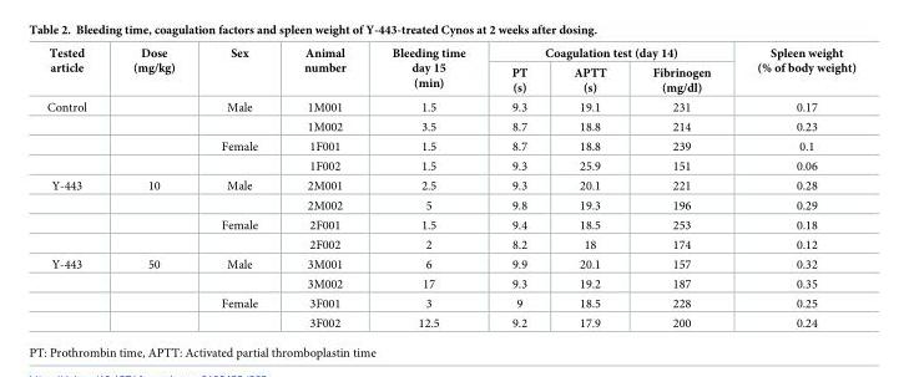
<table><thead><tr><td rowspan="2">Tested article</td><td rowspan="2">Dose (mg/kg)</td><td rowspan="2">Sex</td><td rowspan="2">Animal number</td><td rowspan="2">Bleeding time day 15 (min)</td><td colspan="3">Coagulation test (day 14)</td><td rowspan="2">Spleen weight (% of body weight)</td></tr><tr><td>PT (s)</td><td>APTT (s)</td><td>Fibrinogen (mg/dl)</td></tr></thead><tbody><tr><td rowspan="4">Control</td><td></td><td>Male</td><td>1M001</td><td>1.5</td><td>9.3</td><td>19.1</td><td>231</td><td>0.17</td></tr><tr><td></td><td></td><td>1M002</td><td>3.5</td><td>8.7</td><td>18.8</td><td>214</td><td>0.23</td></tr><tr><td></td><td>Female</td><td>1F001</td><td>1.5</td><td>8.7</td><td>18.8</td><td>239</td><td>0.1</td></tr><tr><td></td><td></td><td>1F002</td><td>1.5</td><td>9.3</td><td>25.9</td><td>151</td><td>0.06</td></tr><tr><td rowspan="4">Y-443</td><td>10</td><td>Male</td><td>2M001</td><td>2.5</td><td>9.3</td><td>20.1</td><td>221</td><td>0.28</td></tr><tr><td></td><td></td><td>2M002</td><td>5</td><td>9.8</td><td>19.3</td><td>196</td><td>0.29</td></tr><tr><td></td><td>Female</td><td>2F001</td><td>1.5</td><td>9.4</td><td>18.5</td><td>253</td><td>0.18</td></tr><tr><td></td><td></td><td>2F002</td><td>2</td><td>8.2</td><td>18</td><td>174</td><td>0.12</td></tr><tr><td rowspan="4">Y-443</td><td>50</td><td>Male</td><td>3M001</td><td>6</td><td>9.9</td><td>20.1</td><td>157</td><td>0.32</td></tr><tr><td></td><td></td><td>3M002</td><td>17</td><td>9.3</td><td>19.2</td><td>187</td><td>0.35</td></tr><tr><td></td><td>Female</td><td>3F001</td><td>3</td><td>9</td><td>18.5</td><td>228</td><td>0.25</td></tr><tr><td></td><td></td><td>3F002</td><td>12.5</td><td>9.2</td><td>17.9</td><td>200</td><td>0.24</td></tr></tbody></table>